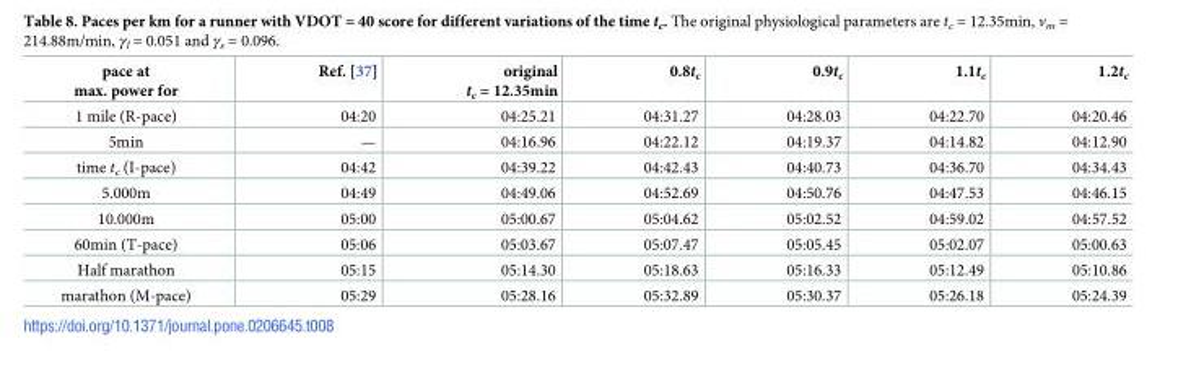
<table><thead><tr><td>pace at max. power for</td><td>Ref. [37]</td><td>original t<sub>c</sub> = 12.35min</td><td>0.8t<sub>c</sub></td><td>0.9t<sub>c</sub></td><td>1.1t<sub>c</sub></td><td>1.2t<sub>c</sub></td></tr></thead><tbody><tr><td>1 mile (R-pace)</td><td>04:20</td><td>04:25.21</td><td>04:31.27</td><td>04:28.03</td><td>04:22.70</td><td>04:20.46</td></tr><tr><td>5min</td><td>—</td><td>04:16.96</td><td>04:22.12</td><td>04:19.37</td><td>04:14.82</td><td>04:12.90</td></tr><tr><td>time t<sub>c</sub> (I-pace)</td><td>04:42</td><td>04:39.22</td><td>04:42.43</td><td>04:40.73</td><td>04:36.70</td><td>04:34.43</td></tr><tr><td>5.000m</td><td>04:49</td><td>04:49.06</td><td>04:52.69</td><td>04:50.76</td><td>04:47.53</td><td>04:46.15</td></tr><tr><td>10.000m</td><td>05:00</td><td>05:00.67</td><td>05:04.62</td><td>05:02.52</td><td>04:59.02</td><td>04:57.52</td></tr><tr><td>60min (T-pace)</td><td>05:06</td><td>05:03.67</td><td>05:07.47</td><td>05:05.45</td><td>05:02.07</td><td>05:00.63</td></tr><tr><td>Half marathon</td><td>05:15</td><td>05:14.30</td><td>05:18.63</td><td>05:16.33</td><td>05:12.49</td><td>05:10.86</td></tr><tr><td>marathon (M-pace)</td><td>05:29</td><td>05:28.16</td><td>05:32.89</td><td>05:30.37</td><td>05:26.18</td><td>05:24.39</td></tr></tbody></table>